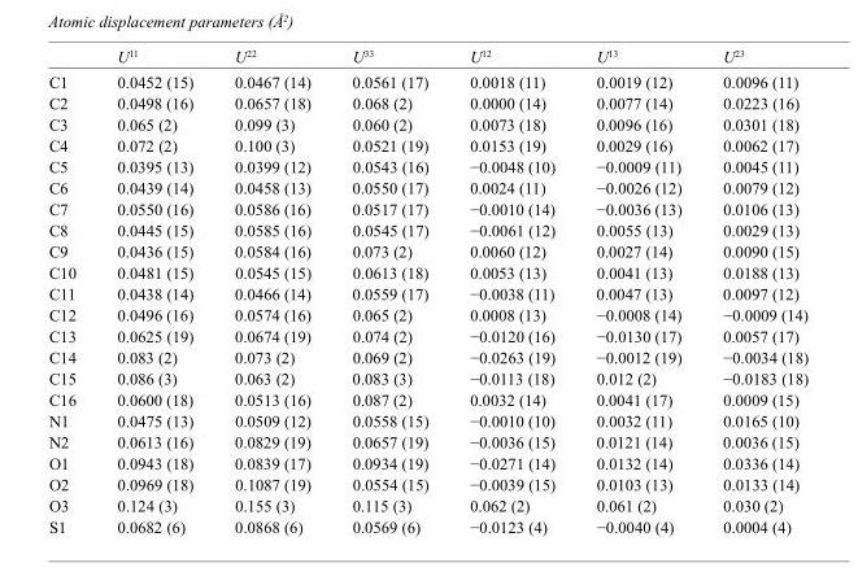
<table><thead><tr><td></td><td>U<sup>11</sup></td><td>U<sup>22</sup></td><td>U<sup>33</sup></td><td>U<sup>12</sup></td><td>U<sup>13</sup></td><td>U<sup>23</sup></td></tr></thead><tbody><tr><td>C1</td><td>0.0452 (15)</td><td>0.0467 (14)</td><td>0.0561 (17)</td><td>0.0018 (11)</td><td>0.0019 (12)</td><td>0.0096 (11)</td></tr><tr><td>C2</td><td>0.0498 (16)</td><td>0.0657 (18)</td><td>0.068 (2)</td><td>0.0000 (14)</td><td>0.0077 (14)</td><td>0.0223 (16)</td></tr><tr><td>C3</td><td>0.065 (2)</td><td>0.099 (3)</td><td>0.060 (2)</td><td>0.0073 (18)</td><td>0.0096 (16)</td><td>0.0301 (18)</td></tr><tr><td>C4</td><td>0.072 (2)</td><td>0.100 (3)</td><td>0.0521 (19)</td><td>0.0153 (19)</td><td>0.0029 (16)</td><td>0.0062 (17)</td></tr><tr><td>C5</td><td>0.0395 (13)</td><td>0.0399 (12)</td><td>0.0543 (16)</td><td>−0.0048 (10)</td><td>−0.0009 (11)</td><td>0.0045 (11)</td></tr><tr><td>C6</td><td>0.0439 (14)</td><td>0.0458 (13)</td><td>0.0550 (17)</td><td>0.0024 (11)</td><td>−0.0026 (12)</td><td>0.0079 (12)</td></tr><tr><td>C7</td><td>0.0550 (16)</td><td>0.0586 (16)</td><td>0.0517 (17)</td><td>−0.0010 (14)</td><td>−0.0036 (13)</td><td>0.0106 (13)</td></tr><tr><td>C8</td><td>0.0445 (15)</td><td>0.0585 (16)</td><td>0.0545 (17)</td><td>−0.0061 (12)</td><td>0.0055 (13)</td><td>0.0029 (13)</td></tr><tr><td>C9</td><td>0.0436 (15)</td><td>0.0584 (16)</td><td>0.073 (2)</td><td>0.0060 (12)</td><td>0.0027 (14)</td><td>0.0090 (15)</td></tr><tr><td>C10</td><td>0.0481 (15)</td><td>0.0545 (15)</td><td>0.0613 (18)</td><td>0.0053 (13)</td><td>0.0041 (13)</td><td>0.0188 (13)</td></tr><tr><td>C11</td><td>0.0438 (14)</td><td>0.0466 (14)</td><td>0.0559 (17)</td><td>−0.0038 (11)</td><td>0.0047 (13)</td><td>0.0097 (12)</td></tr><tr><td>C12</td><td>0.0496 (16)</td><td>0.0574 (16)</td><td>0.065 (2)</td><td>0.0008 (13)</td><td>−0.0008 (14)</td><td>−0.0009 (14)</td></tr><tr><td>C13</td><td>0.0625 (19)</td><td>0.0674 (19)</td><td>0.074 (2)</td><td>−0.0120 (16)</td><td>−0.0130 (17)</td><td>0.0057 (17)</td></tr><tr><td>C14</td><td>0.083 (2)</td><td>0.073 (2)</td><td>0.069 (2)</td><td>−0.0263 (19)</td><td>−0.0012 (19)</td><td>−0.0034 (18)</td></tr><tr><td>C15</td><td>0.086 (3)</td><td>0.063 (2)</td><td>0.083 (3)</td><td>−0.0113 (18)</td><td>0.012 (2)</td><td>−0.0183 (18)</td></tr><tr><td>C16</td><td>0.0600 (18)</td><td>0.0513 (16)</td><td>0.087 (2)</td><td>0.0032 (14)</td><td>0.0041 (17)</td><td>0.0009 (15)</td></tr><tr><td>N1</td><td>0.0475 (13)</td><td>0.0509 (12)</td><td>0.0558 (15)</td><td>−0.0010 (10)</td><td>0.0032 (11)</td><td>0.0165 (10)</td></tr><tr><td>N2</td><td>0.0613 (16)</td><td>0.0829 (19)</td><td>0.0657 (19)</td><td>−0.0036 (15)</td><td>0.0121 (14)</td><td>0.0036 (15)</td></tr><tr><td>O1</td><td>0.0943 (18)</td><td>0.0839 (17)</td><td>0.0934 (19)</td><td>−0.0271 (14)</td><td>0.0132 (14)</td><td>0.0336 (14)</td></tr><tr><td>O2</td><td>0.0969 (18)</td><td>0.1087 (19)</td><td>0.0554 (15)</td><td>−0.0039 (15)</td><td>0.0103 (13)</td><td>0.0133 (14)</td></tr><tr><td>O3</td><td>0.124 (3)</td><td>0.155 (3)</td><td>0.115 (3)</td><td>0.062 (2)</td><td>0.061 (2)</td><td>0.030 (2)</td></tr><tr><td>S1</td><td>0.0682 (6)</td><td>0.0868 (6)</td><td>0.0569 (6)</td><td>−0.0123 (4)</td><td>−0.0040 (4)</td><td>0.0004 (4)</td></tr></tbody></table>